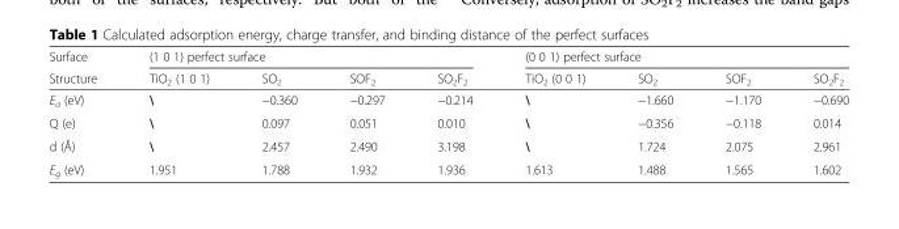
<table><thead><tr><td rowspan="2">Surface Structure</td><td colspan="4">(1 0 1) perfect surface</td><td colspan="4">(0 0 1) perfect surface</td></tr><tr><td>TiO<sub>2</sub> (1 0 1)</td><td>SO<sub>2</sub></td><td>SOF<sub>2</sub></td><td>SO<sub>2</sub>F<sub>2</sub></td><td>TiO<sub>2</sub> (0 0 1)</td><td>SO<sub>2</sub></td><td>SOF<sub>2</sub></td><td>SO<sub>2</sub>F<sub>2</sub></td></tr></thead><tbody><tr><td>E<sub>a</sub> (eV)</td><td>\</td><td>−0.360</td><td>−0.297</td><td>−0.214</td><td>\</td><td>−1.660</td><td>−1.170</td><td>−0.690</td></tr><tr><td>Q (e)</td><td>\</td><td>0.097</td><td>0.051</td><td>0.010</td><td>\</td><td>−0.356</td><td>−0.118</td><td>0.014</td></tr><tr><td>d (Å)</td><td>\</td><td>2.457</td><td>2.490</td><td>3.198</td><td>\</td><td>1.724</td><td>2.075</td><td>2.961</td></tr><tr><td>E<sub>g</sub> (eV)</td><td>1.951</td><td>1.788</td><td>1.932</td><td>1.936</td><td>1.613</td><td>1.488</td><td>1.565</td><td>1.602</td></tr></tbody></table>